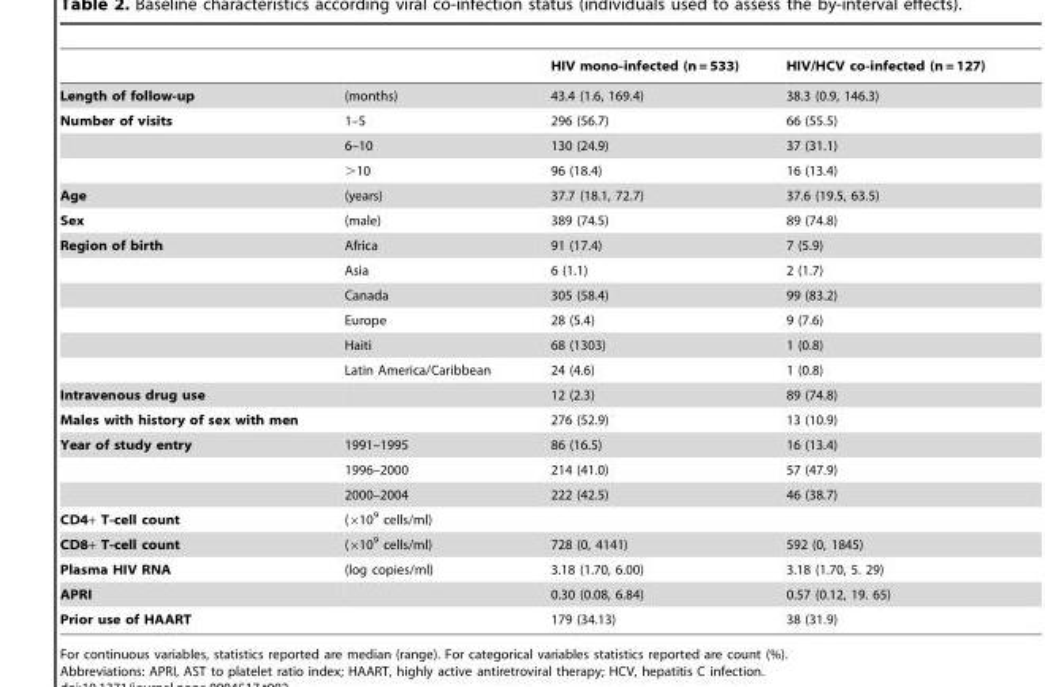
<table><thead><tr><td></td><td></td><td>HIV mono-infected (n = 533)</td><td>HIV/HCV co-infected (n = 127)</td></tr></thead><tbody><tr><td>Length of follow-up</td><td>(months)</td><td>43.4 (1.6, 169.4)</td><td>38.3 (0.9, 146.3)</td></tr><tr><td rowspan="3">Number of visits</td><td>1–5</td><td>296 (56.7)</td><td>66 (55.5)</td></tr><tr><td>6–10</td><td>130 (24.9)</td><td>37 (31.1)</td></tr><tr><td>&gt;10</td><td>96 (18.4)</td><td>16 (13.4)</td></tr><tr><td>Age</td><td>(years)</td><td>37.7 (18.1, 72.7)</td><td>37.6 (19.5, 63.5)</td></tr><tr><td>Sex</td><td>(male)</td><td>389 (74.5)</td><td>89 (74.8)</td></tr><tr><td rowspan="6">Region of birth</td><td>Africa</td><td>91 (17.4)</td><td>7 (5.9)</td></tr><tr><td>Asia</td><td>6 (1.1)</td><td>2 (1.7)</td></tr><tr><td>Canada</td><td>305 (58.4)</td><td>99 (83.2)</td></tr><tr><td>Europe</td><td>28 (5.4)</td><td>9 (7.6)</td></tr><tr><td>Haiti</td><td>68 (1303)</td><td>1 (0.8)</td></tr><tr><td>Latin America/Caribbean</td><td>24 (4.6)</td><td>1 (0.8)</td></tr><tr><td>Intravenous drug use</td><td></td><td>12 (2.3)</td><td>89 (74.8)</td></tr><tr><td>Males with history of sex with men</td><td></td><td>276 (52.9)</td><td>13 (10.9)</td></tr><tr><td rowspan="3">Year of study entry</td><td>1991–1995</td><td>86 (16.5)</td><td>16 (13.4)</td></tr><tr><td>1996–2000</td><td>214 (41.0)</td><td>57 (47.9)</td></tr><tr><td>2000–2004</td><td>222 (42.5)</td><td>46 (38.7)</td></tr><tr><td>CD4+ T-cell count</td><td>(×10<sup>9</sup> cells/ml)</td><td></td><td></td></tr><tr><td>CD8+ T-cell count</td><td>(×10<sup>9</sup> cells/ml)</td><td>728 (0, 4141)</td><td>592 (0, 1845)</td></tr><tr><td>Plasma HIV RNA</td><td>(log copies/ml)</td><td>3.18 (1.70, 6.00)</td><td>3.18 (1.70, 5. 29)</td></tr><tr><td>APRI</td><td></td><td>0.30 (0.08, 6.84)</td><td>0.57 (0.12, 19. 65)</td></tr><tr><td>Prior use of HAART</td><td></td><td>179 (34.13)</td><td>38 (31.9)</td></tr></tbody></table>